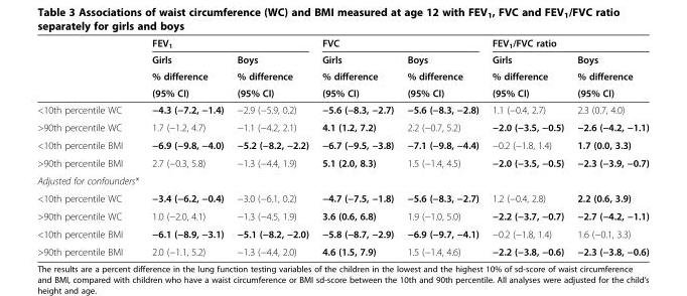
<table><thead><tr><td rowspan="4"></td><td colspan="2">FEV<sub>1</sub></td><td colspan="2">FVC</td><td colspan="2">FEV<sub>1</sub>/FVC ratio</td></tr><tr><td rowspan="3">Girls % difference (95% CI)</td><td rowspan="3">Boys % difference (95% CI)</td><td rowspan="3">Girls % difference (95% CI)</td><td rowspan="3">Boys % difference (95% CI)</td><td rowspan="3">Girls % difference (95% CI)</td><td rowspan="3">Boys % difference (95% CI)</td></tr><tr></tr><tr></tr></thead><tbody><tr><td>&lt;10th percentile WC</td><td>−4.3 (−7.2, −1.4)</td><td>−2.9 (−5.9, 0.2)</td><td>−5.6 (−8.3, −2.7)</td><td>−5.6 (−8.3, −2.8)</td><td>1.1 (−0.4, 2.7)</td><td>2.3 (0.7, 4.0)</td></tr><tr><td>&gt;90th percentile WC</td><td>1.7 (−1.2, 4.7)</td><td>−1.1 (−4.2, 2.1)</td><td>4.1 (1.2, 7.2)</td><td>2.2 (−0.7, 5.2)</td><td>−2.0 (−3.5, −0.5)</td><td>−2.6 (−4.2, −1.1)</td></tr><tr><td>&lt;10th percentile BMI</td><td>−6.9 (−9.8, −4.0)</td><td>−5.2 (−8.2, −2.2)</td><td>−6.7 (−9.5, −3.8)</td><td>−7.1 (−9.8, −4.4)</td><td>−0.2 (−1.8, 1.4)</td><td>1.7 (0.0, 3.3)</td></tr><tr><td>&gt;90th percentile BMI</td><td>2.7 (−0.3, 5.8)</td><td>−1.3 (−4.4, 1.9)</td><td>5.1 (2.0, 8.3)</td><td>1.5 (−1.4, 4.5)</td><td>−2.0 (−3.5, −0.5)</td><td>−2.3 (−3.9, −0.7)</td></tr><tr><td colspan="7">Adjusted for confounders*</td></tr><tr><td>&lt;10th percentile WC</td><td>−3.4 (−6.2, −0.4)</td><td>−3.0 (−6.1, 0.2)</td><td>−4.7 (−7.5, −1.8)</td><td>−5.6 (−8.3, −2.7)</td><td>1.2 (−0.4, 2.8)</td><td>2.2 (0.6, 3.9)</td></tr><tr><td>&gt;90th percentile WC</td><td>1.0 (−2.0, 4.1)</td><td>−1.3 (−4.5, 1.9)</td><td>3.6 (0.6, 6.8)</td><td>1.9 (−1.0, 5.0)</td><td>−2.2 (−3.7, −0.7)</td><td>−2.7 (−4.2, −1.1)</td></tr><tr><td>&lt;10th percentile BMI</td><td>−6.1 (−8.9, −3.1)</td><td>−5.1 (−8.2, −2.0)</td><td>−5.8 (−8.7, −2.9)</td><td>−6.9 (−9.7, −4.1)</td><td>−0.2 (−1.8, 1.4)</td><td>1.6 (−0.1, 3.3)</td></tr><tr><td>&gt;90th percentile BMI</td><td>2.0 (−1.1, 5.2)</td><td>−1.3 (−4.4, 2.0)</td><td>4.6 (1.5, 7.9)</td><td>1.5 (−1.4, 4.6)</td><td>−2.2 (−3.8, −0.6)</td><td>−2.3 (−3.8, −0.6)</td></tr></tbody></table>